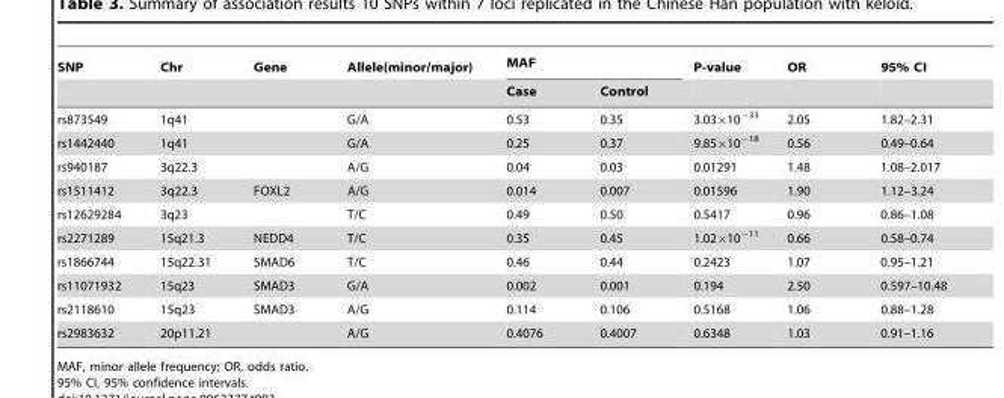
<table><thead><tr><td rowspan="2">SNP</td><td rowspan="2">Chr</td><td rowspan="2">Gene</td><td rowspan="2">Allele(minor/major)</td><td colspan="2">MAF</td><td rowspan="2">P-value</td><td rowspan="2">OR</td><td rowspan="2">95% CI</td></tr><tr><td>Case</td><td>Control</td></tr></thead><tbody><tr><td>rs873549</td><td>1q41</td><td></td><td>G/A</td><td>0.53</td><td>0.35</td><td>3.03×10<sup>−33</sup></td><td>2.05</td><td>1.82–2.31</td></tr><tr><td>rs1442440</td><td>1q41</td><td></td><td>G/A</td><td>0.25</td><td>0.37</td><td>9.85×10<sup>−18</sup></td><td>0.56</td><td>0.49–0.64</td></tr><tr><td>rs940187</td><td>3q22.3</td><td></td><td>A/G</td><td>0.04</td><td>0.03</td><td>0.01291</td><td>1.48</td><td>1.08–2.017</td></tr><tr><td>rs1511412</td><td>3q22.3</td><td>FOXL2</td><td>A/G</td><td>0.014</td><td>0.007</td><td>0.01596</td><td>1.90</td><td>1.12–3.24</td></tr><tr><td>rs12629284</td><td>3q23</td><td></td><td>T/C</td><td>0.49</td><td>0.50</td><td>0.5417</td><td>0.96</td><td>0.86–1.08</td></tr><tr><td>rs2271289</td><td>15q21.3</td><td>NEDD4</td><td>T/C</td><td>0.35</td><td>0.45</td><td>1.02×10<sup>−11</sup></td><td>0.66</td><td>0.58–0.74</td></tr><tr><td>rs1866744</td><td>15q22.31</td><td>SMAD6</td><td>T/C</td><td>0.46</td><td>0.44</td><td>0.2423</td><td>1.07</td><td>0.95–1.21</td></tr><tr><td>rs11071932</td><td>15q23</td><td>SMAD3</td><td>G/A</td><td>0.002</td><td>0.001</td><td>0.194</td><td>2.50</td><td>0.597–10.48</td></tr><tr><td>rs2118610</td><td>15q23</td><td>SMAD3</td><td>A/G</td><td>0.114</td><td>0.106</td><td>0.5168</td><td>1.06</td><td>0.88–1.28</td></tr><tr><td>rs2983632</td><td>20p11.21</td><td></td><td>A/G</td><td>0.4076</td><td>0.4007</td><td>0.6348</td><td>1.03</td><td>0.91–1.16</td></tr></tbody></table>